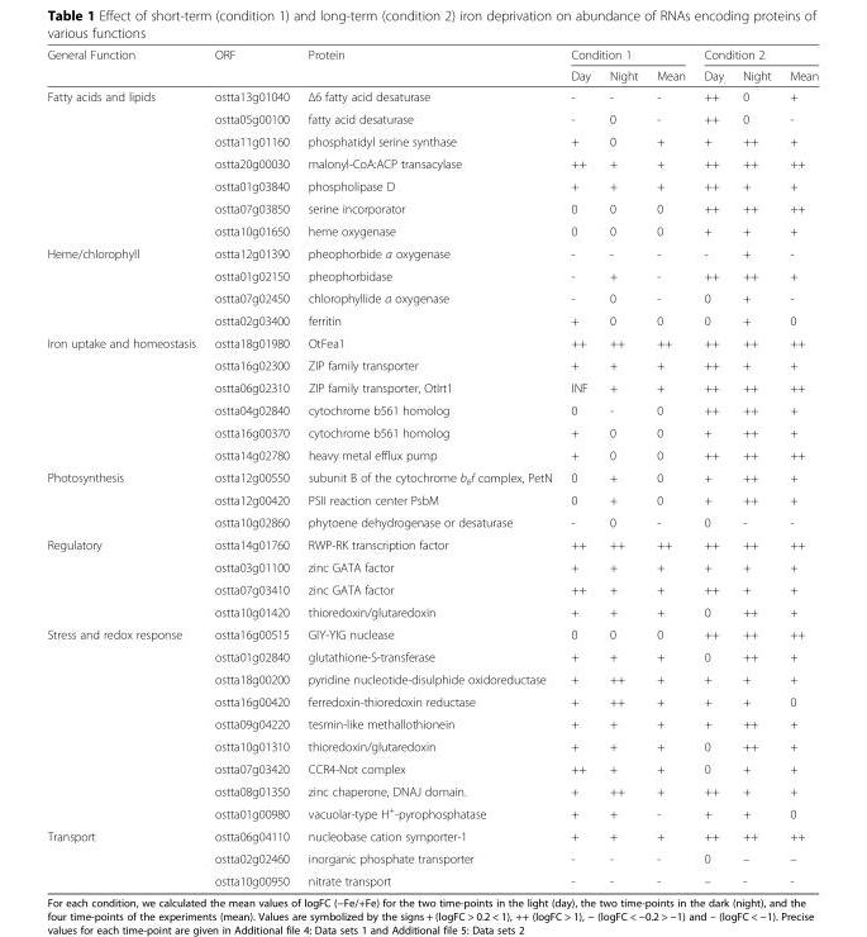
<table><thead><tr><td rowspan="2">General Function</td><td rowspan="2">ORF</td><td rowspan="2">Protein</td><td colspan="3">Condition 1</td><td colspan="3">Condition 2</td></tr><tr><td>Day</td><td>Night</td><td>Mean</td><td>Day</td><td>Night</td><td>Mean</td></tr></thead><tbody><tr><td rowspan="7">Fatty acids and lipids</td><td>ostta13g01040</td><td>Δ6 fatty acid desaturase</td><td>-</td><td>-</td><td>-</td><td>++</td><td>0</td><td>+</td></tr><tr><td>ostta05g00100</td><td>fatty acid desaturase</td><td>-</td><td>0</td><td>-</td><td>++</td><td>0</td><td>-</td></tr><tr><td>ostta11g01160</td><td>phosphatidyl serine synthase</td><td>+</td><td>0</td><td>+</td><td>+</td><td>++</td><td>+</td></tr><tr><td>ostta20g00030</td><td>malonyl-CoA:ACP transacylase</td><td>++</td><td>+</td><td>+</td><td>++</td><td>++</td><td>++</td></tr><tr><td>ostta01g03840</td><td>phospholipase D</td><td>+</td><td>+</td><td>+</td><td>++</td><td>+</td><td>+</td></tr><tr><td>ostta07g03850</td><td>serine incorporator</td><td>0</td><td>0</td><td>0</td><td>++</td><td>++</td><td>++</td></tr><tr><td>ostta10g01650</td><td>heme oxygenase</td><td>0</td><td>0</td><td>0</td><td>+</td><td>+</td><td>+</td></tr><tr><td rowspan="4">Heme/chlorophyll</td><td>ostta12g01390</td><td>pheophorbide a oxygenase</td><td>-</td><td>-</td><td>-</td><td>-</td><td>+</td><td>-</td></tr><tr><td>ostta01g02150</td><td>pheophorbidase</td><td>-</td><td>+</td><td>-</td><td>++</td><td>++</td><td>+</td></tr><tr><td>ostta07g02450</td><td>chlorophyllide a oxygenase</td><td>-</td><td>0</td><td>-</td><td>0</td><td>+</td><td>-</td></tr><tr><td>ostta02g03400</td><td>ferritin</td><td>+</td><td>0</td><td>0</td><td>0</td><td>+</td><td>0</td></tr><tr><td rowspan="6">Iron uptake and homeostasis</td><td>ostta18g01980</td><td>OtFea1</td><td>++</td><td>++</td><td>++</td><td>++</td><td>++</td><td>++</td></tr><tr><td>ostta16g02300</td><td>ZIP family transporter</td><td>+</td><td>+</td><td>+</td><td>++</td><td>+</td><td>+</td></tr><tr><td>ostta06g02310</td><td>ZIP family transporter, OtIrt1</td><td>INF</td><td>+</td><td>+</td><td>++</td><td>++</td><td>++</td></tr><tr><td>ostta04g02840</td><td>cytochrome b561 homolog</td><td>0</td><td>-</td><td>0</td><td>++</td><td>++</td><td>+</td></tr><tr><td>ostta16g00370</td><td>cytochrome b561 homolog</td><td>+</td><td>0</td><td>0</td><td>+</td><td>++</td><td>+</td></tr><tr><td>ostta14g02780</td><td>heavy metal efflux pump</td><td>+</td><td>0</td><td>0</td><td>++</td><td>++</td><td>++</td></tr><tr><td rowspan="3">Photosynthesis</td><td>ostta12g00550</td><td>subunit B of the cytochrome b<sub>6</sub>f complex, PetN</td><td>0</td><td>+</td><td>0</td><td>+</td><td>++</td><td>+</td></tr><tr><td>ostta12g00420</td><td>PSII reaction center PsbM</td><td>0</td><td>+</td><td>0</td><td>+</td><td>++</td><td>+</td></tr><tr><td>ostta10g02860</td><td>phytoene dehydrogenase or desaturase</td><td>-</td><td>0</td><td>-</td><td>0</td><td>-</td><td>-</td></tr><tr><td rowspan="4">Regulatory</td><td>ostta14g01760</td><td>RWP-RK transcription factor</td><td>++</td><td>++</td><td>++</td><td>++</td><td>++</td><td>++</td></tr><tr><td>ostta03g01100</td><td>zinc GATA factor</td><td>+</td><td>+</td><td>+</td><td>+</td><td>+</td><td>+</td></tr><tr><td>ostta07g03410</td><td>zinc GATA factor</td><td>++</td><td>+</td><td>+</td><td>++</td><td>+</td><td>+</td></tr><tr><td>ostta10g01420</td><td>thioredoxin/glutaredoxin</td><td>+</td><td>+</td><td>+</td><td>0</td><td>++</td><td>+</td></tr><tr><td rowspan="9">Stress and redox response</td><td>ostta16g00515</td><td>GIY-YIG nuclease</td><td>0</td><td>0</td><td>0</td><td>++</td><td>++</td><td>++</td></tr><tr><td>ostta01g02840</td><td>glutathione-S-transferase</td><td>+</td><td>+</td><td>+</td><td>0</td><td>++</td><td>+</td></tr><tr><td>ostta18g00200</td><td>pyridine nucleotide-disulphide oxidoreductase</td><td>+</td><td>++</td><td>+</td><td>+</td><td>+</td><td>+</td></tr><tr><td>ostta16g00420</td><td>ferredoxin-thioredoxin reductase</td><td>+</td><td>++</td><td>+</td><td>+</td><td>+</td><td>0</td></tr><tr><td>ostta09g04220</td><td>tesmin-like methallothionein</td><td>+</td><td>+</td><td>+</td><td>+</td><td>++</td><td>+</td></tr><tr><td>ostta10g01310</td><td>thioredoxin/glutaredoxin</td><td>+</td><td>+</td><td>+</td><td>0</td><td>++</td><td>+</td></tr><tr><td>ostta07g03420</td><td>CCR4-Not complex</td><td>++</td><td>+</td><td>+</td><td>0</td><td>+</td><td>+</td></tr><tr><td>ostta08g01350</td><td>zinc chaperone, DNAJ domain.</td><td>+</td><td>++</td><td>+</td><td>++</td><td>+</td><td>+</td></tr><tr><td>ostta01g00980</td><td>vacuolar-type H<sup>+</sup>-pyrophosphatase</td><td>+</td><td>+</td><td>-</td><td>+</td><td>+</td><td>0</td></tr><tr><td rowspan="3">Transport</td><td>ostta06g04110</td><td>nucleobase cation symporter-1</td><td>+</td><td>+</td><td>+</td><td>++</td><td>++</td><td>++</td></tr><tr><td>ostta02g02460</td><td>inorganic phosphate transporter</td><td>-</td><td>-</td><td>-</td><td>0</td><td>–</td><td>–</td></tr><tr><td>ostta10g00950</td><td>nitrate transport</td><td>-</td><td>-</td><td>-</td><td>–</td><td>-</td><td>-</td></tr></tbody></table>